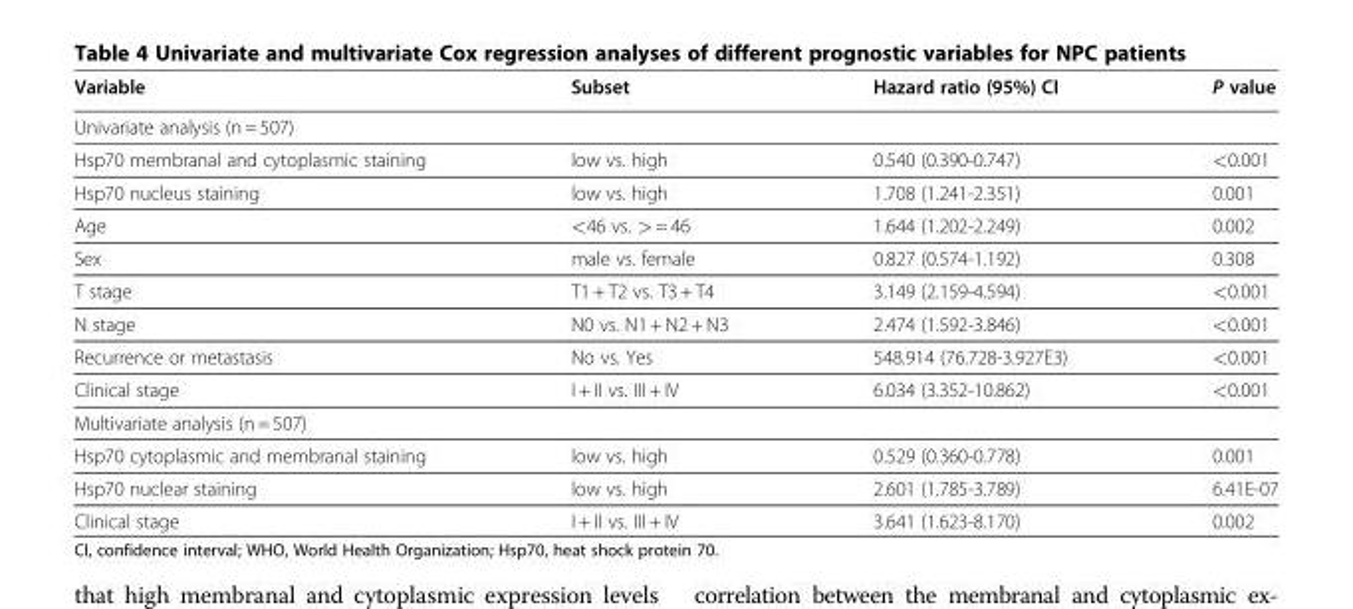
<table><thead><tr><td>Variable</td><td>Subset</td><td>Hazard ratio (95%) CI</td><td>P value</td></tr></thead><tbody><tr><td colspan="4">Univariate analysis (n = 507)</td></tr><tr><td>Hsp70 membranal and cytoplasmic staining</td><td>low vs. high</td><td>0.540 (0.390-0.747)</td><td>&lt;0.001</td></tr><tr><td>Hsp70 nucleus staining</td><td>low vs. high</td><td>1.708 (1.241-2.351)</td><td>0.001</td></tr><tr><td>Age</td><td>&lt;46 vs. &gt; = 46</td><td>1.644 (1.202-2.249)</td><td>0.002</td></tr><tr><td>Sex</td><td>male vs. female</td><td>0.827 (0.574-1.192)</td><td>0.308</td></tr><tr><td>T stage</td><td>T1 + T2 vs. T3 + T4</td><td>3.149 (2.159-4.594)</td><td>&lt;0.001</td></tr><tr><td>N stage</td><td>N0 vs. N1 + N2 + N3</td><td>2.474 (1.592-3.846)</td><td>&lt;0.001</td></tr><tr><td>Recurrence or metastasis</td><td>No vs. Yes</td><td>548.914 (76.728-3.927E3)</td><td>&lt;0.001</td></tr><tr><td>Clinical stage</td><td>I + II vs. III + IV</td><td>6.034 (3.352-10.862)</td><td>&lt;0.001</td></tr><tr><td colspan="4">Multivariate analysis (n = 507)</td></tr><tr><td>Hsp70 cytoplasmic and membranal staining</td><td>low vs. high</td><td>0.529 (0.360-0.778)</td><td>0.001</td></tr><tr><td>Hsp70 nuclear staining</td><td>low vs. high</td><td>2.601 (1.785-3.789)</td><td>6.41E-07</td></tr><tr><td>Clinical stage</td><td>I + II vs. III + IV</td><td>3.641 (1.623-8.170)</td><td>0.002</td></tr></tbody></table>